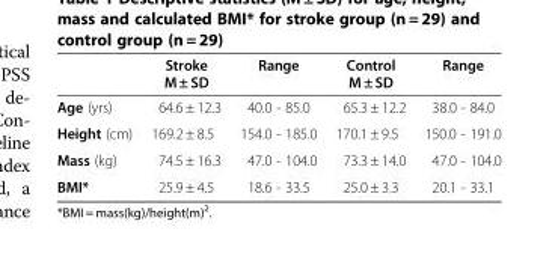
<table><thead><tr><td></td><td>Stroke M ± SD</td><td>Range</td><td>Control M ± SD</td><td>Range</td></tr></thead><tbody><tr><td>Age (yrs)</td><td>64.6 ± 12.3</td><td>40.0 - 85.0</td><td>65.3 ± 12.2</td><td>38.0 - 84.0</td></tr><tr><td>Height (cm)</td><td>169.2 ± 8.5</td><td>154.0 - 185.0</td><td>170.1 ± 9.5</td><td>150.0 - 191.0</td></tr><tr><td>Mass (kg)</td><td>74.5 ± 16.3</td><td>47.0 - 104.0</td><td>73.3 ± 14.0</td><td>47.0 - 104.0</td></tr><tr><td>BMI*</td><td>25.9 ± 4.5</td><td>18.6 - 33.5</td><td>25.0 ± 3.3</td><td>20.1 - 33.1</td></tr></tbody></table>